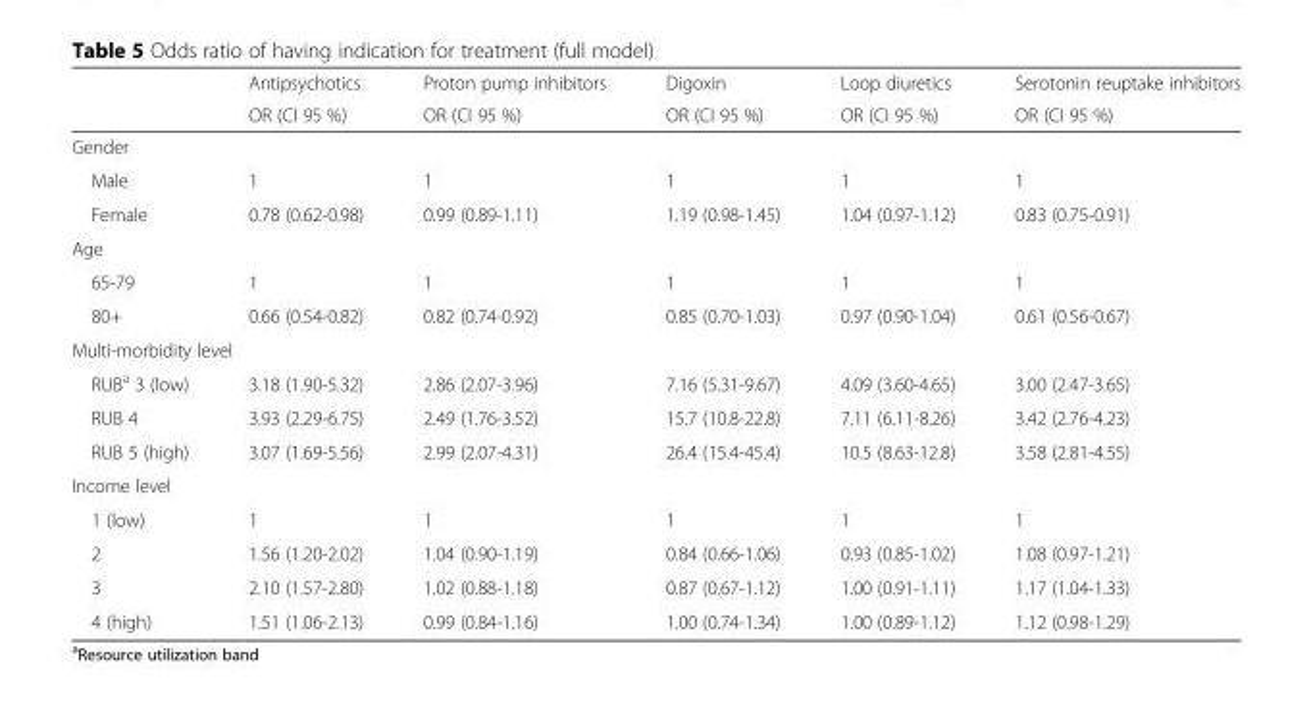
<table><thead><tr><td rowspan="2"></td><td rowspan="2">Antipsychotics OR (CI 95 %)</td><td rowspan="2">Proton pump inhibitors OR (CI 95 %)</td><td rowspan="2">Digoxin OR (CI 95 %)</td><td rowspan="2">Loop diuretics OR (CI 95 %)</td><td rowspan="2">Serotonin reuptake inhibitors OR (CI 95 %)</td></tr><tr></tr></thead><tbody><tr><td colspan="6">Gender</td></tr><tr><td>Male</td><td>1</td><td>1</td><td>1</td><td>1</td><td>1</td></tr><tr><td>Female</td><td>0.78 (0.62-0.98)</td><td>0.99 (0.89-1.11)</td><td>1.19 (0.98-1.45)</td><td>1.04 (0.97-1.12)</td><td>0.83 (0.75-0.91)</td></tr><tr><td colspan="6">Age</td></tr><tr><td>65-79</td><td>1</td><td>1</td><td>1</td><td>1</td><td>1</td></tr><tr><td>80+</td><td>0.66 (0.54-0.82)</td><td>0.82 (0.74-0.92)</td><td>0.85 (0.70-1.03)</td><td>0.97 (0.90-1.04)</td><td>0.61 (0.56-0.67)</td></tr><tr><td colspan="6">Multi-morbidity level</td></tr><tr><td>RUB<sup>a</sup> 3 (low)</td><td>3.18 (1.90-5.32)</td><td>2.86 (2.07-3.96)</td><td>7.16 (5.31-9.67)</td><td>4.09 (3.60-4.65)</td><td>3.00 (2.47-3.65)</td></tr><tr><td>RUB 4</td><td>3.93 (2.29-6.75)</td><td>2.49 (1.76-3.52)</td><td>15.7 (10.8-22.8)</td><td>7.11 (6.11-8.26)</td><td>3.42 (2.76-4.23)</td></tr><tr><td>RUB 5 (high)</td><td>3.07 (1.69-5.56)</td><td>2.99 (2.07-4.31)</td><td>26.4 (15.4-45.4)</td><td>10.5 (8.63-12.8)</td><td>3.58 (2.81-4.55)</td></tr><tr><td colspan="6">Income level</td></tr><tr><td>1 (low)</td><td>1</td><td>1</td><td>1</td><td>1</td><td>1</td></tr><tr><td>2</td><td>1.56 (1.20-2.02)</td><td>1.04 (0.90-1.19)</td><td>0.84 (0.66-1.06)</td><td>0.93 (0.85-1.02)</td><td>1.08 (0.97-1.21)</td></tr><tr><td>3</td><td>2.10 (1.57-2.80)</td><td>1.02 (0.88-1.18)</td><td>0.87 (0.67-1.12)</td><td>1.00 (0.91-1.11)</td><td>1.17 (1.04-1.33)</td></tr><tr><td>4 (high)</td><td>1.51 (1.06-2.13)</td><td>0.99 (0.84-1.16)</td><td>1.00 (0.74-1.34)</td><td>1.00 (0.89-1.12)</td><td>1.12 (0.98-1.29)</td></tr></tbody></table>